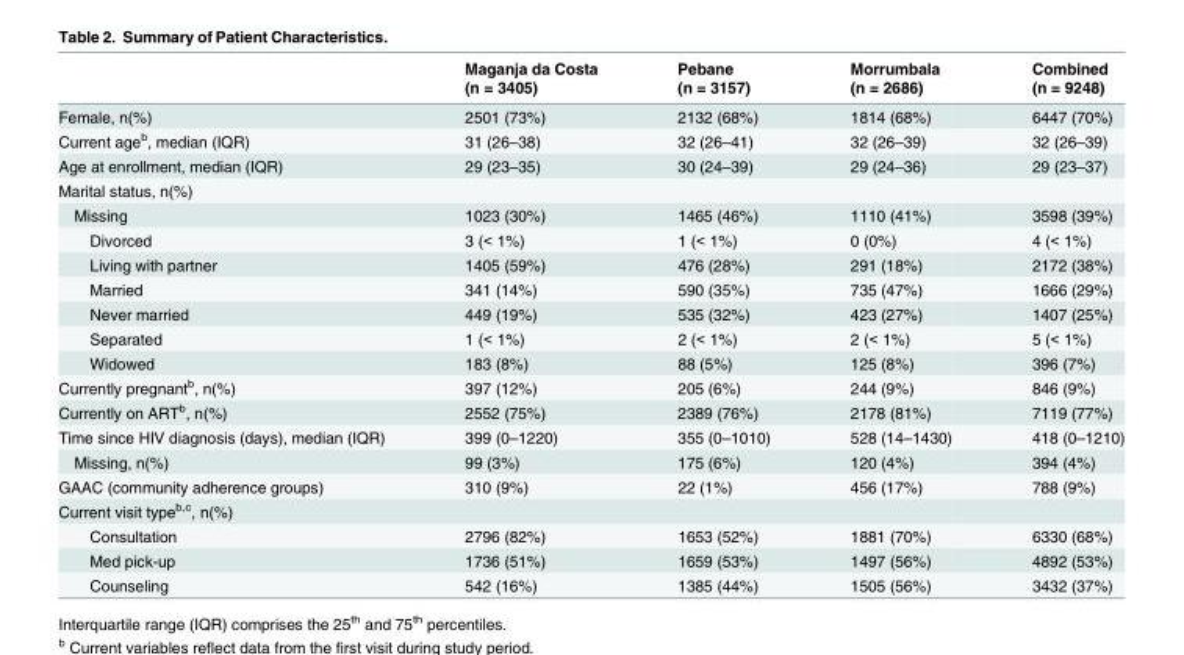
<table><thead><tr><td rowspan="2"></td><td rowspan="2">Maganja da Costa (n = 3405)</td><td rowspan="2">Pebane (n = 3157)</td><td rowspan="2">Morrumbala (n = 2686)</td><td rowspan="2">Combined (n = 9248)</td></tr><tr></tr></thead><tbody><tr><td>Female, n(%)</td><td>2501 (73%)</td><td>2132 (68%)</td><td>1814 (68%)</td><td>6447 (70%)</td></tr><tr><td>Current age<sup>b</sup>, median (IQR)</td><td>31 (26–38)</td><td>32 (26–41)</td><td>32 (26–39)</td><td>32 (26–39)</td></tr><tr><td>Age at enrollment, median (IQR)</td><td>29 (23–35)</td><td>30 (24–39)</td><td>29 (24–36)</td><td>29 (23–37)</td></tr><tr><td colspan="5">Marital status, n(%)</td></tr><tr><td>Missing</td><td>1023 (30%)</td><td>1465 (46%)</td><td>1110 (41%)</td><td>3598 (39%)</td></tr><tr><td>Divorced</td><td>3 (&lt; 1%)</td><td>1 (&lt; 1%)</td><td>0 (0%)</td><td>4 (&lt; 1%)</td></tr><tr><td>Living with partner</td><td>1405 (59%)</td><td>476 (28%)</td><td>291 (18%)</td><td>2172 (38%)</td></tr><tr><td>Married</td><td>341 (14%)</td><td>590 (35%)</td><td>735 (47%)</td><td>1666 (29%)</td></tr><tr><td>Never married</td><td>449 (19%)</td><td>535 (32%)</td><td>423 (27%)</td><td>1407 (25%)</td></tr><tr><td>Separated</td><td>1 (&lt; 1%)</td><td>2 (&lt; 1%)</td><td>2 (&lt; 1%)</td><td>5 (&lt; 1%)</td></tr><tr><td>Widowed</td><td>183 (8%)</td><td>88 (5%)</td><td>125 (8%)</td><td>396 (7%)</td></tr><tr><td>Currently pregnant<sup>b</sup>, n(%)</td><td>397 (12%)</td><td>205 (6%)</td><td>244 (9%)</td><td>846 (9%)</td></tr><tr><td>Currently on ART<sup>b</sup>, n(%)</td><td>2552 (75%)</td><td>2389 (76%)</td><td>2178 (81%)</td><td>7119 (77%)</td></tr><tr><td>Time since HIV diagnosis (days), median (IQR)</td><td>399 (0–1220)</td><td>355 (0–1010)</td><td>528 (14–1430)</td><td>418 (0–1210)</td></tr><tr><td>Missing, n(%)</td><td>99 (3%)</td><td>175 (6%)</td><td>120 (4%)</td><td>394 (4%)</td></tr><tr><td>GAAC (community adherence groups)</td><td>310 (9%)</td><td>22 (1%)</td><td>456 (17%)</td><td>788 (9%)</td></tr><tr><td colspan="5">Current visit type<sup>b,c</sup>, n(%)</td></tr><tr><td>Consultation</td><td>2796 (82%)</td><td>1653 (52%)</td><td>1881 (70%)</td><td>6330 (68%)</td></tr><tr><td>Med pick-up</td><td>1736 (51%)</td><td>1659 (53%)</td><td>1497 (56%)</td><td>4892 (53%)</td></tr><tr><td>Counseling</td><td>542 (16%)</td><td>1385 (44%)</td><td>1505 (56%)</td><td>3432 (37%)</td></tr></tbody></table>